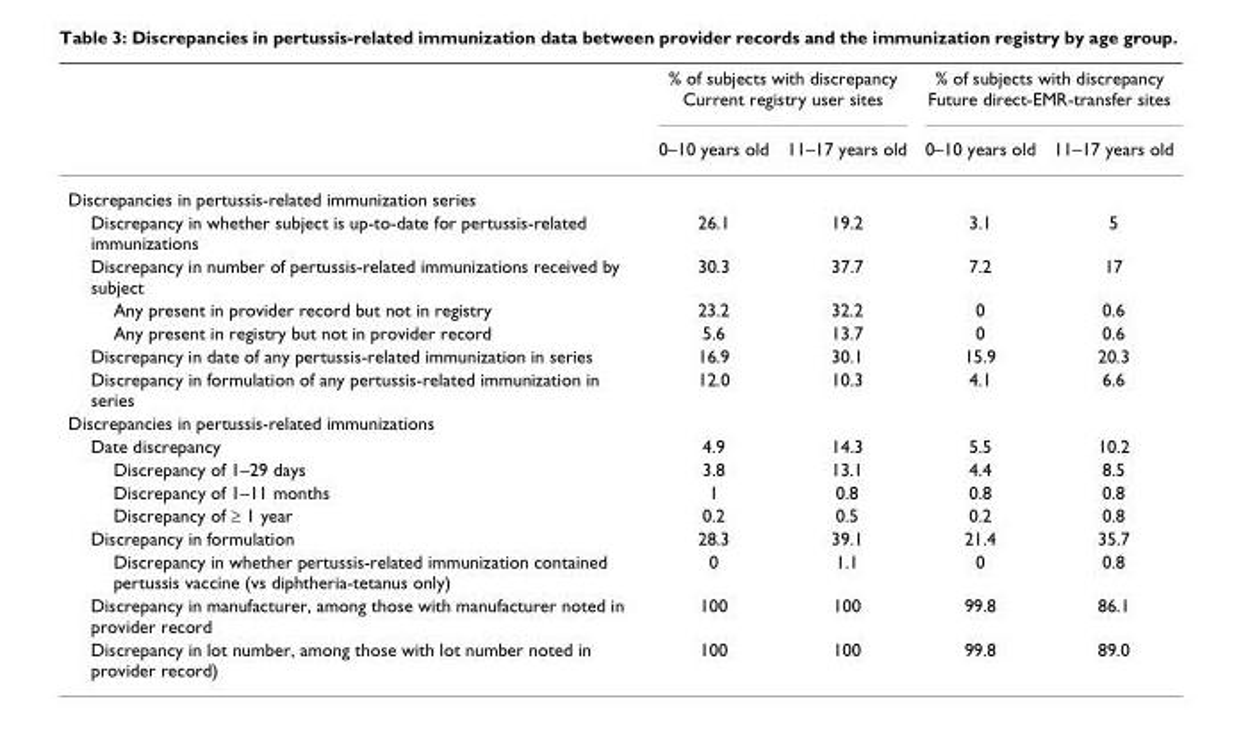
<table><thead><tr><td rowspan="2"></td><td colspan="2">% of subjects with discrepancy Current registry user sites</td><td colspan="2">% of subjects with discrepancy Future direct-EMR-transfer sites</td></tr><tr><td>0–10 years old</td><td>11–17 years old</td><td>0–10 years old</td><td>11–17 years old</td></tr></thead><tbody><tr><td colspan="5">Discrepancies in pertussis-related immunization series</td></tr><tr><td>Discrepancy in whether subject is up-to-date for pertussis-related immunizations</td><td>26.1</td><td>19.2</td><td>3.1</td><td>5</td></tr><tr><td>Discrepancy in number of pertussis-related immunizations received by subject</td><td>30.3</td><td>37.7</td><td>7.2</td><td>17</td></tr><tr><td>Any present in provider record but not in registry</td><td>23.2</td><td>32.2</td><td>0</td><td>0.6</td></tr><tr><td>Any present in registry but not in provider record</td><td>5.6</td><td>13.7</td><td>0</td><td>0.6</td></tr><tr><td>Discrepancy in date of any pertussis-related immunization in series</td><td>16.9</td><td>30.1</td><td>15.9</td><td>20.3</td></tr><tr><td>Discrepancy in formulation of any pertussis-related immunization in series</td><td>12.0</td><td>10.3</td><td>4.1</td><td>6.6</td></tr><tr><td colspan="5">Discrepancies in pertussis-related immunizations</td></tr><tr><td>Date discrepancy</td><td>4.9</td><td>14.3</td><td>5.5</td><td>10.2</td></tr><tr><td>Discrepancy of 1–29 days</td><td>3.8</td><td>13.1</td><td>4.4</td><td>8.5</td></tr><tr><td>Discrepancy of 1–11 months</td><td>1</td><td>0.8</td><td>0.8</td><td>0.8</td></tr><tr><td>Discrepancy of ≥ 1 year</td><td>0.2</td><td>0.5</td><td>0.2</td><td>0.8</td></tr><tr><td>Discrepancy in formulation</td><td>28.3</td><td>39.1</td><td>21.4</td><td>35.7</td></tr><tr><td>Discrepancy in whether pertussis-related immunization contained pertussis vaccine (vs diphtheria-tetanus only)</td><td>0</td><td>1.1</td><td>0</td><td>0.8</td></tr><tr><td>Discrepancy in manufacturer, among those with manufacturer noted in provider record</td><td>100</td><td>100</td><td>99.8</td><td>86.1</td></tr><tr><td>Discrepancy in lot number, among those with lot number noted in provider record)</td><td>100</td><td>100</td><td>99.8</td><td>89.0</td></tr></tbody></table>